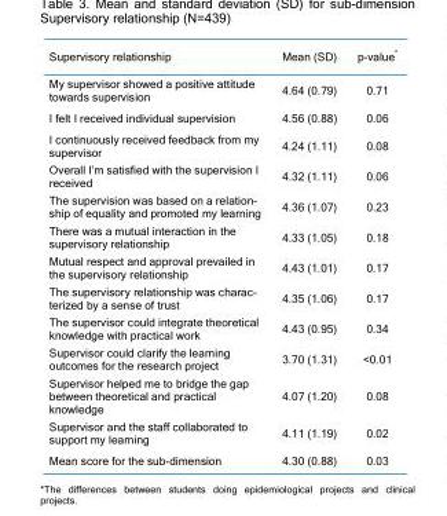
<table><thead><tr><td>Supervisory relationship</td><td>Mean (SD)</td><td>p-value*</td></tr></thead><tbody><tr><td>My supervisor showed a positive attitude towards supervision</td><td>4.64 (0.79)</td><td>0.71</td></tr><tr><td>I felt I received individual supervision</td><td>4.56 (0.88)</td><td>0.06</td></tr><tr><td>I continuously received feedback from my supervisor</td><td>4.24 (1.11)</td><td>0.08</td></tr><tr><td>Overall I’m satisfied with the supervision I received</td><td>4.32 (1.11)</td><td>0.06</td></tr><tr><td>The supervision was based on a relation- ship of equality and promoted my learning</td><td>4.36 (1.07)</td><td>0.23</td></tr><tr><td>There was a mutual interaction in the supervisory relationship</td><td>4.33 (1.05)</td><td>0.18</td></tr><tr><td>Mutual respect and approval prevailed in the supervisory relationship</td><td>4.43 (1.01)</td><td>0.17</td></tr><tr><td>The supervisory relationship was charac- terized by a sense of trust</td><td>4.35 (1.06)</td><td>0.17</td></tr><tr><td>The supervisor could integrate theoretical knowledge with practical work</td><td>4.43 (0.95)</td><td>0.34</td></tr><tr><td>Supervisor could clarify the learning outcomes for the research project</td><td>3.70 (1.31)</td><td>&lt;0.01</td></tr><tr><td>Supervisor helped me to bridge the gap between theoretical and practical knowledge</td><td>4.07 (1.20)</td><td>0.08</td></tr><tr><td>Supervisor and the staff collaborated to support my learning</td><td>4.11 (1.19)</td><td>0.02</td></tr><tr><td>Mean score for the sub-dimension</td><td>4.30 (0.88)</td><td>0.03</td></tr></tbody></table>